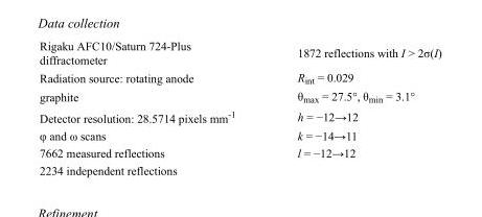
<table><tbody><tr><td>Rigaku AFC10/Saturn 724-Plus diffractometer</td><td>1872 reflections with I &gt; 2σ(I)</td></tr><tr><td>Radiation source: rotating anode</td><td>R<sub>int</sub> = 0.029</td></tr><tr><td>graphite</td><td>θ<sub>max</sub> = 27.5°, θ<sub>min</sub> = 3.1°</td></tr><tr><td>Detector resolution: 28.5714 pixels mm<sup>-1</sup></td><td>h = −12→12</td></tr><tr><td>φ and ω scans</td><td>k = −14→11</td></tr><tr><td>7662 measured reflections</td><td>l = −12→12</td></tr><tr><td>2234 independent reflections</td><td></td></tr></tbody></table>